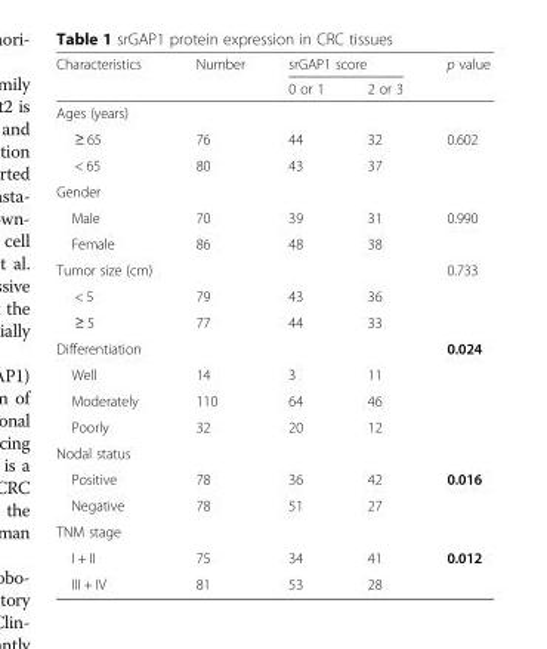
<table><thead><tr><td rowspan="2">Characteristics</td><td rowspan="2">Number</td><td colspan="2">srGAP1 score</td><td rowspan="2">p value</td></tr><tr><td>0 or 1</td><td>2 or 3</td></tr></thead><tbody><tr><td colspan="5">Ages (years)</td></tr><tr><td>≥ 65</td><td>76</td><td>44</td><td>32</td><td>0.602</td></tr><tr><td>&lt; 65</td><td>80</td><td>43</td><td>37</td><td></td></tr><tr><td colspan="5">Gender</td></tr><tr><td>Male</td><td>70</td><td>39</td><td>31</td><td>0.990</td></tr><tr><td>Female</td><td>86</td><td>48</td><td>38</td><td></td></tr><tr><td>Tumor size (cm)</td><td></td><td></td><td></td><td>0.733</td></tr><tr><td>&lt; 5</td><td>79</td><td>43</td><td>36</td><td></td></tr><tr><td>≥ 5</td><td>77</td><td>44</td><td>33</td><td></td></tr><tr><td>Differentiation</td><td></td><td></td><td></td><td>0.024</td></tr><tr><td>Well</td><td>14</td><td>3</td><td>11</td><td></td></tr><tr><td>Moderately</td><td>110</td><td>64</td><td>46</td><td></td></tr><tr><td>Poorly</td><td>32</td><td>20</td><td>12</td><td></td></tr><tr><td colspan="5">Nodal status</td></tr><tr><td>Positive</td><td>78</td><td>36</td><td>42</td><td>0.016</td></tr><tr><td>Negative</td><td>78</td><td>51</td><td>27</td><td></td></tr><tr><td colspan="5">TNM stage</td></tr><tr><td>I + II</td><td>75</td><td>34</td><td>41</td><td>0.012</td></tr><tr><td>III + IV</td><td>81</td><td>53</td><td>28</td><td></td></tr></tbody></table>